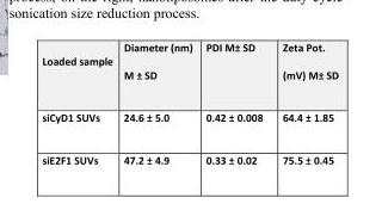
<table><thead><tr><td>Loaded sample</td><td>Diameter (nm) M ± SD</td><td>PDI M± SD</td><td>Zeta Pot. (mV) M± SD</td></tr></thead><tbody><tr><td>siCyD1 SUVs</td><td>24.6 ± 5.0</td><td>0.42 ± 0.008</td><td>64.4 ± 1.85</td></tr><tr><td>siE2F1 SUVs</td><td>47.2 ± 4.9</td><td>0.33 ± 0.02</td><td>75.5 ± 0.45</td></tr></tbody></table>